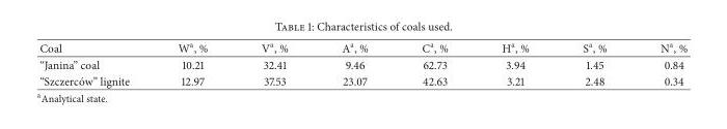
<table><thead><tr><td>Coal</td><td>W<sup>a</sup>, %</td><td>V<sup>a</sup>, %</td><td>A<sup>a</sup>, %</td><td>C<sup>a</sup>, %</td><td>H<sup>a</sup>, %</td><td>S<sup>a</sup>, %</td><td>N<sup>a</sup>, %</td></tr></thead><tbody><tr><td>“Janina” coal</td><td>10.21</td><td>32.41</td><td>9.46</td><td>62.73</td><td>3.94</td><td>1.45</td><td>0.84</td></tr><tr><td>“Szczerc´ow” lignite</td><td>12.97</td><td>37.53</td><td>23.07</td><td>42.63</td><td>3.21</td><td>2.48</td><td>0.34</td></tr></tbody></table>